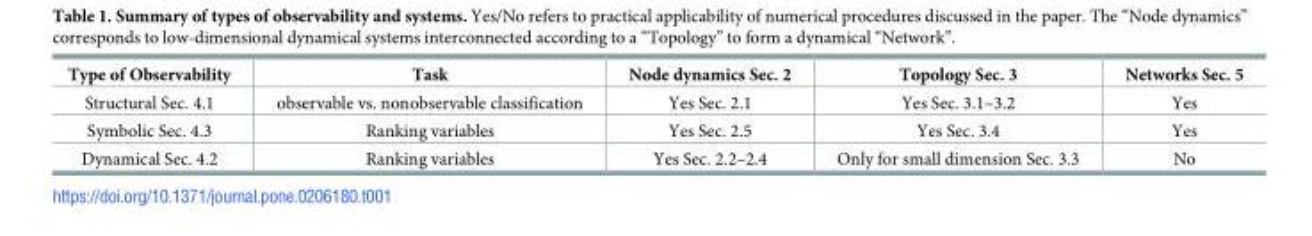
<table><thead><tr><td>Type of Observability</td><td>Task</td><td>Node dynamics Sec. 2</td><td>Topology Sec. 3</td><td>Networks Sec. 5</td></tr></thead><tbody><tr><td>Structural Sec. 4.1</td><td>observable vs. nonobservable classification</td><td>Yes Sec. 2.1</td><td>Yes Sec. 3.1–3.2</td><td>Yes</td></tr><tr><td>Symbolic Sec. 4.3</td><td>Ranking variables</td><td>Yes Sec. 2.5</td><td>Yes Sec. 3.4</td><td>Yes</td></tr><tr><td>Dynamical Sec. 4.2</td><td>Ranking variables</td><td>Yes Sec. 2.2–2.4</td><td>Only for small dimension Sec. 3.3</td><td>No</td></tr></tbody></table>